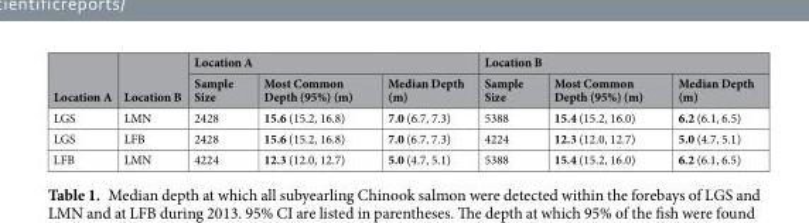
<table><thead><tr><td rowspan="2">Location A</td><td rowspan="2">Location B</td><td colspan="3">Location A</td><td colspan="3">Location B</td></tr><tr><td>Sample Size</td><td>Most Common Depth (95%) (m)</td><td>Median Depth (m)</td><td>Sample Size</td><td>Most Common Depth (95%) (m)</td><td>Median Depth (m)</td></tr></thead><tbody><tr><td>LGS</td><td>LMN</td><td>2428</td><td>15.6 (15.2, 16.8)</td><td>7.0 (6.7, 7.3)</td><td>5388</td><td>15.4 (15.2, 16.0)</td><td>6.2 (6.1, 6.5)</td></tr><tr><td>LGS</td><td>LFB</td><td>2428</td><td>15.6 (15.2, 16.8)</td><td>7.0 (6.7, 7.3)</td><td>4224</td><td>12.3 (12.0, 12.7)</td><td>5.0 (4.7, 5.1)</td></tr><tr><td>LFB</td><td>LMN</td><td>4224</td><td>12.3 (12.0, 12.7)</td><td>5.0 (4.7, 5.1)</td><td>5388</td><td>15.4 (15.2, 16.0)</td><td>6.2 (6.1, 6.5)</td></tr></tbody></table>